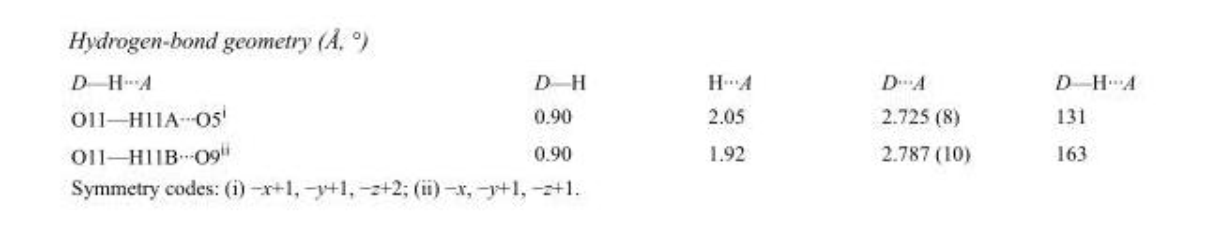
<table><tbody><tr><td>D—H···A</td><td>D—H</td><td>H···A</td><td>D···A</td><td>D—H···A</td></tr><tr><td>O11—H11A···O5<sup>i</sup></td><td>0.90</td><td>2.05</td><td>2.725 (8)</td><td>131</td></tr><tr><td>O11—H11B···O9<sup>ii</sup></td><td>0.90</td><td>1.92</td><td>2.787 (10)</td><td>163</td></tr></tbody></table>